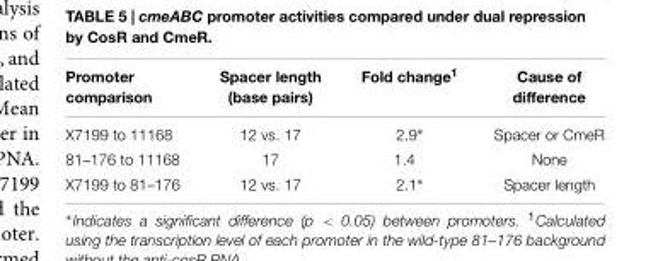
<table><thead><tr><td>Promoter comparison</td><td>Spacer length (base pairs)</td><td>Fold change<sup>1</sup></td><td>Cause of difference</td></tr></thead><tbody><tr><td>X7199 to 11168</td><td>12 vs. 17</td><td>2.9∗</td><td>Spacer or CmeR</td></tr><tr><td>81–176 to 11168</td><td>17</td><td>1.4</td><td>None</td></tr><tr><td>X7199 to 81–176</td><td>12 vs. 17</td><td>2.1∗</td><td>Spacer length</td></tr></tbody></table>